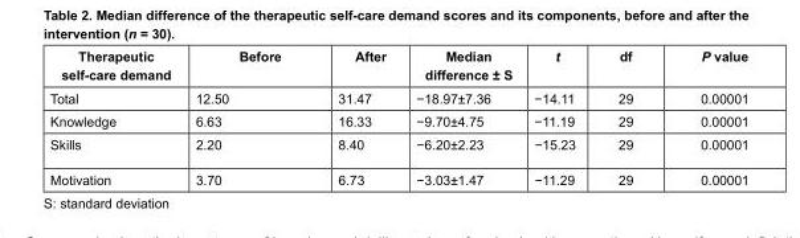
<table><thead><tr><td>Therapeutic self-care demand</td><td>Before</td><td>After</td><td>Median difference ± S</td><td>t</td><td>df</td><td>P value</td></tr></thead><tbody><tr><td>Total</td><td>12.50</td><td>31.47</td><td>−18.97±7.36</td><td>−14.11</td><td>29</td><td>0.00001</td></tr><tr><td>Knowledge</td><td>6.63</td><td>16.33</td><td>−9.70±4.75</td><td>−11.19</td><td>29</td><td>0.00001</td></tr><tr><td>Skills</td><td>2.20</td><td>8.40</td><td>−6.20±2.23</td><td>−15.23</td><td>29</td><td>0.00001</td></tr><tr><td>Motivation</td><td>3.70</td><td>6.73</td><td>−3.03±1.47</td><td>−11.29</td><td>29</td><td>0.00001</td></tr></tbody></table>